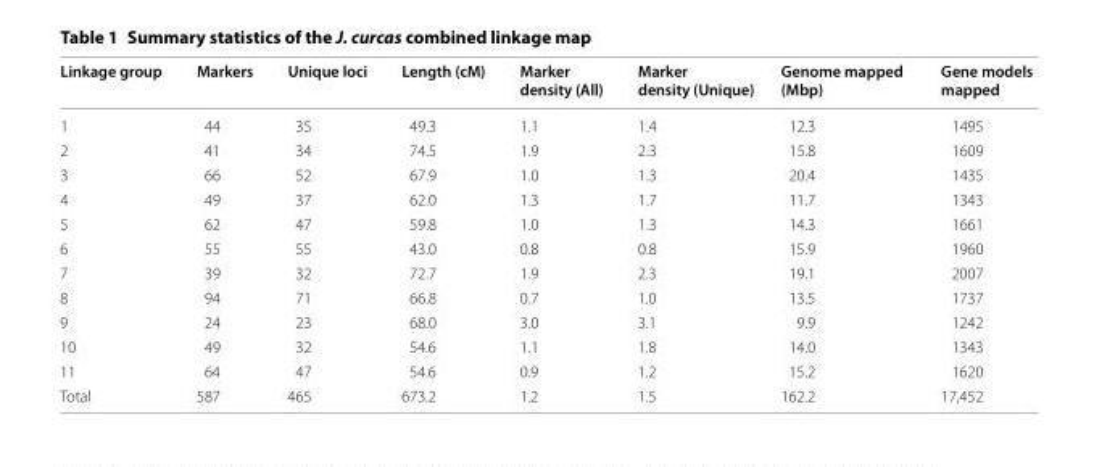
<table><thead><tr><td>Linkage group</td><td>Markers</td><td>Unique loci</td><td>Length (cM)</td><td>Marker density (All)</td><td>Marker density (Unique)</td><td>Genome mapped (Mbp)</td><td>Gene models mapped</td></tr></thead><tbody><tr><td>1</td><td>44</td><td>35</td><td>49.3</td><td>1.1</td><td>1.4</td><td>12.3</td><td>1495</td></tr><tr><td>2</td><td>41</td><td>34</td><td>74.5</td><td>1.9</td><td>2.3</td><td>15.8</td><td>1609</td></tr><tr><td>3</td><td>66</td><td>52</td><td>67.9</td><td>1.0</td><td>1.3</td><td>20.4</td><td>1435</td></tr><tr><td>4</td><td>49</td><td>37</td><td>62.0</td><td>1.3</td><td>1.7</td><td>11.7</td><td>1343</td></tr><tr><td>5</td><td>62</td><td>47</td><td>59.8</td><td>1.0</td><td>1.3</td><td>14.3</td><td>1661</td></tr><tr><td>6</td><td>55</td><td>55</td><td>43.0</td><td>0.8</td><td>0.8</td><td>15.9</td><td>1960</td></tr><tr><td>7</td><td>39</td><td>32</td><td>72.7</td><td>1.9</td><td>2.3</td><td>19.1</td><td>2007</td></tr><tr><td>8</td><td>94</td><td>71</td><td>66.8</td><td>0.7</td><td>1.0</td><td>13.5</td><td>1737</td></tr><tr><td>9</td><td>24</td><td>23</td><td>68.0</td><td>3.0</td><td>3.1</td><td>9.9</td><td>1242</td></tr><tr><td>10</td><td>49</td><td>32</td><td>54.6</td><td>1.1</td><td>1.8</td><td>14.0</td><td>1343</td></tr><tr><td>11</td><td>64</td><td>47</td><td>54.6</td><td>0.9</td><td>1.2</td><td>15.2</td><td>1620</td></tr><tr><td>Total</td><td>587</td><td>465</td><td>673.2</td><td>1.2</td><td>1.5</td><td>162.2</td><td>17,452</td></tr></tbody></table>